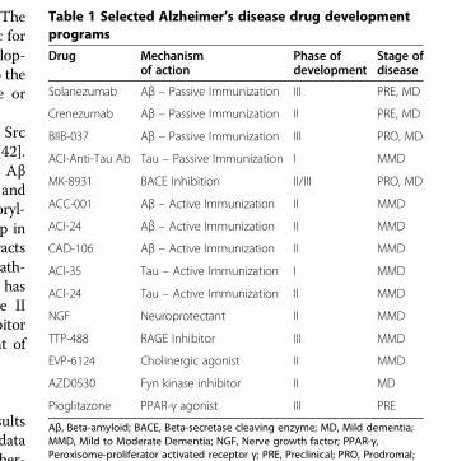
<table><thead><tr><td>Drug</td><td>Mechanism of action</td><td>Phase of development</td><td>Stage of disease</td></tr></thead><tbody><tr><td>Solanezumab</td><td>Aβ – Passive Immunization</td><td>III</td><td>PRE, MD</td></tr><tr><td>Crenezumab</td><td>Aβ – Passive Immunization</td><td>II</td><td>PRE, MD</td></tr><tr><td>BIIB-037</td><td>Aβ – Passive Immunization</td><td>III</td><td>PRO, MD</td></tr><tr><td>ACI-Anti-Tau Ab</td><td>Tau – Passive Immunization</td><td>I</td><td>MMD</td></tr><tr><td>MK-8931</td><td>BACE Inhibition</td><td>II/III</td><td>PRO, MD</td></tr><tr><td>ACC-001</td><td>Aβ – Active Immunization</td><td>II</td><td>MMD</td></tr><tr><td>ACI-24</td><td>Aβ – Active Immunization</td><td>II</td><td>MMD</td></tr><tr><td>CAD-106</td><td>Aβ – Active Immunization</td><td>II</td><td>MMD</td></tr><tr><td>ACI-35</td><td>Tau – Active Immunization</td><td>I</td><td>MMD</td></tr><tr><td>ACI-24</td><td>Tau – Active Immunization</td><td>II</td><td>MMD</td></tr><tr><td>NGF</td><td>Neuroprotectant</td><td>II</td><td>MMD</td></tr><tr><td>TTP-488</td><td>RAGE Inhibitor</td><td>III</td><td>MMD</td></tr><tr><td>EVP-6124</td><td>Cholinergic agonist</td><td>II</td><td>MMD</td></tr><tr><td>AZD0530</td><td>Fyn kinase inhibitor</td><td>II</td><td>MD</td></tr><tr><td>Pioglitazone</td><td>PPAR-γ agonist</td><td>III</td><td>PRE</td></tr></tbody></table>